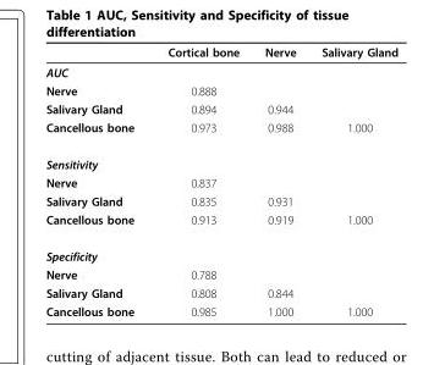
<table><thead><tr><td></td><td>Cortical bone</td><td>Nerve</td><td>Salivary Gland</td></tr></thead><tbody><tr><td colspan="4">AUC</td></tr><tr><td>Nerve</td><td>0.888</td><td></td><td></td></tr><tr><td>Salivary Gland</td><td>0.894</td><td>0.944</td><td></td></tr><tr><td>Cancellous bone</td><td>0.973</td><td>0.988</td><td>1.000</td></tr><tr><td colspan="4">Sensitivity</td></tr><tr><td>Nerve</td><td>0.837</td><td></td><td></td></tr><tr><td>Salivary Gland</td><td>0.835</td><td>0.931</td><td></td></tr><tr><td>Cancellous bone</td><td>0.913</td><td>0.919</td><td>1.000</td></tr><tr><td colspan="4">Specificity</td></tr><tr><td>Nerve</td><td>0.788</td><td></td><td></td></tr><tr><td>Salivary Gland</td><td>0.808</td><td>0.844</td><td></td></tr><tr><td>Cancellous bone</td><td>0.985</td><td>1.000</td><td>1.000</td></tr></tbody></table>